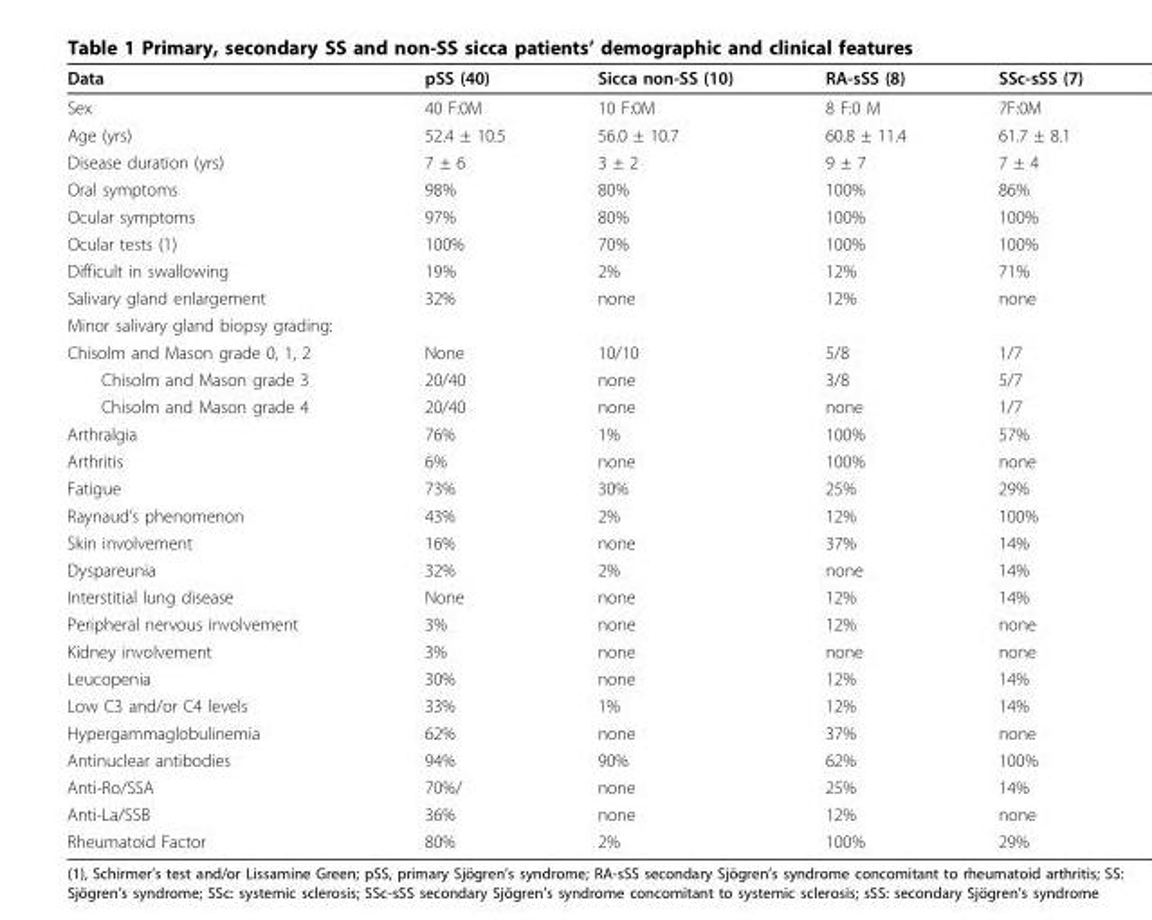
<table><thead><tr><td>Data</td><td>pSS (40)</td><td>Sicca non-SS (10)</td><td>RA-sSS (8)</td><td>SSc-sSS (7)</td></tr></thead><tbody><tr><td>Sex</td><td>40 F:0M</td><td>10 F:0M</td><td>8 F:0 M</td><td>7F:0M</td></tr><tr><td>Age (yrs)</td><td>52.4 ± 10.5</td><td>56.0 ± 10.7</td><td>60.8 ± 11.4</td><td>61.7 ± 8.1</td></tr><tr><td>Disease duration (yrs)</td><td>7 ± 6</td><td>3 ± 2</td><td>9 ± 7</td><td>7 ± 4</td></tr><tr><td>Oral symptoms</td><td>98%</td><td>80%</td><td>100%</td><td>86%</td></tr><tr><td>Ocular symptoms</td><td>97%</td><td>80%</td><td>100%</td><td>100%</td></tr><tr><td>Ocular tests (1)</td><td>100%</td><td>70%</td><td>100%</td><td>100%</td></tr><tr><td>Difficult in swallowing</td><td>19%</td><td>2%</td><td>12%</td><td>71%</td></tr><tr><td>Salivary gland enlargement</td><td>32%</td><td>none</td><td>12%</td><td>none</td></tr><tr><td colspan="5">Minor salivary gland biopsy grading:</td></tr><tr><td>Chisolm and Mason grade 0, 1, 2</td><td>None</td><td>10/10</td><td>5/8</td><td>1/7</td></tr><tr><td>Chisolm and Mason grade 3</td><td>20/40</td><td>none</td><td>3/8</td><td>5/7</td></tr><tr><td>Chisolm and Mason grade 4</td><td>20/40</td><td>none</td><td>none</td><td>1/7</td></tr><tr><td>Arthralgia</td><td>76%</td><td>1%</td><td>100%</td><td>57%</td></tr><tr><td>Arthritis</td><td>6%</td><td>none</td><td>100%</td><td>none</td></tr><tr><td>Fatigue</td><td>73%</td><td>30%</td><td>25%</td><td>29%</td></tr><tr><td>Raynaud’s phenomenon</td><td>43%</td><td>2%</td><td>12%</td><td>100%</td></tr><tr><td>Skin involvement</td><td>16%</td><td>none</td><td>37%</td><td>14%</td></tr><tr><td>Dyspareunia</td><td>32%</td><td>2%</td><td>none</td><td>14%</td></tr><tr><td>Interstitial lung disease</td><td>None</td><td>none</td><td>12%</td><td>14%</td></tr><tr><td>Peripheral nervous involvement</td><td>3%</td><td>none</td><td>12%</td><td>none</td></tr><tr><td>Kidney involvement</td><td>3%</td><td>none</td><td>none</td><td>none</td></tr><tr><td>Leucopenia</td><td>30%</td><td>none</td><td>12%</td><td>14%</td></tr><tr><td>Low C3 and/or C4 levels</td><td>33%</td><td>1%</td><td>12%</td><td>14%</td></tr><tr><td>Hypergammaglobulinemia</td><td>62%</td><td>none</td><td>37%</td><td>none</td></tr><tr><td>Antinuclear antibodies</td><td>94%</td><td>90%</td><td>62%</td><td>100%</td></tr><tr><td>Anti-Ro/SSA</td><td>70%/</td><td>none</td><td>25%</td><td>14%</td></tr><tr><td>Anti-La/SSB</td><td>36%</td><td>none</td><td>12%</td><td>none</td></tr><tr><td>Rheumatoid Factor</td><td>80%</td><td>2%</td><td>100%</td><td>29%</td></tr></tbody></table>